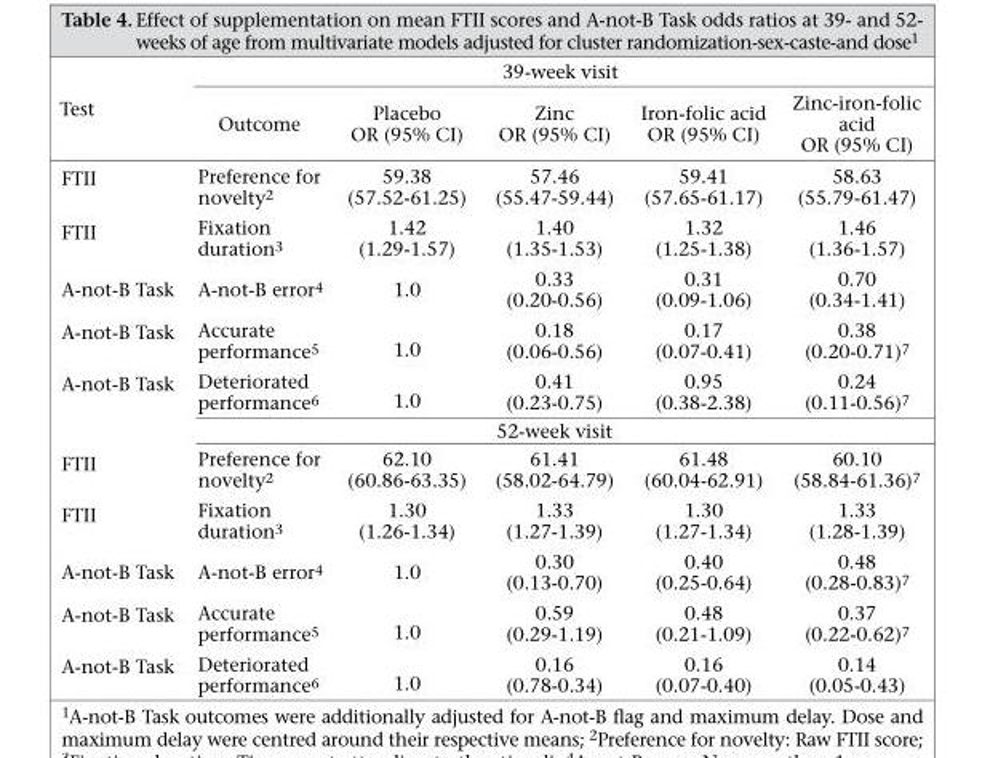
<table><thead><tr><td rowspan="2">Test</td><td colspan="5">39-week visit</td></tr><tr><td>Outcome</td><td>Placebo OR (95% CI)</td><td>Zinc OR (95% CI)</td><td>Iron-folic acid OR (95% CI)</td><td>Zinc-iron-folic acid OR (95% CI)</td></tr></thead><tbody><tr><td>FTII</td><td>Preference for novelty<sup>2</sup></td><td>59.38 (57.52-61.25)</td><td>57.46 (55.47-59.44)</td><td>59.41 (57.65-61.17)</td><td>58.63 (55.79-61.47)</td></tr><tr><td>FTII</td><td>Fixation duration<sup>3</sup></td><td>1.42 (1.29-1.57)</td><td>1.40 (1.35-1.53)</td><td>1.32 (1.25-1.38)</td><td>1.46 (1.36-1.57)</td></tr><tr><td>A-not-B Task</td><td>A-not-B error<sup>4</sup></td><td>1.0</td><td>0.33 (0.20-0.56)</td><td>0.31 (0.09-1.06)</td><td>0.70 (0.34-1.41)</td></tr><tr><td>A-not-B Task</td><td>Accurate performance<sup>5</sup></td><td>1.0</td><td>0.18 (0.06-0.56)</td><td>0.17 (0.07-0.41)</td><td>0.38 (0.20-0.71)<sup>7</sup></td></tr><tr><td rowspan="2">A-not-B Task</td><td>Deteriorated performance<sup>6</sup></td><td>1.0</td><td>0.41 (0.23-0.75)</td><td>0.95 (0.38-2.38)</td><td>0.24 (0.11-0.56)<sup>7</sup></td></tr><tr><td colspan="5">52-week visit</td></tr><tr><td>FTII</td><td>Preference for novelty<sup>2</sup></td><td>62.10 (60.86-63.35)</td><td>61.41 (58.02-64.79)</td><td>61.48 (60.04-62.91)</td><td>60.10 (58.84-61.36)<sup>7</sup></td></tr><tr><td>FTII</td><td>Fixation duration<sup>3</sup></td><td>1.30 (1.26-1.34)</td><td>1.33 (1.27-1.39)</td><td>1.30 (1.27-1.34)</td><td>1.33 (1.28-1.39)</td></tr><tr><td>A-not-B Task</td><td>A-not-B error<sup>4</sup></td><td>1.0</td><td>0.30 (0.13-0.70)</td><td>0.40 (0.25-0.64)</td><td>0.48 (0.28-0.83)<sup>7</sup></td></tr><tr><td>A-not-B Task</td><td>Accurate performance<sup>5</sup></td><td>1.0</td><td>0.59 (0.29-1.19)</td><td>0.48 (0.21-1.09)</td><td>0.37 (0.22-0.62)<sup>7</sup></td></tr><tr><td>A-not-B Task</td><td>Deteriorated performance<sup>6</sup></td><td>1.0</td><td>0.16 (0.78-0.34)</td><td>0.16 (0.07-0.40)</td><td>0.14 (0.05-0.43)</td></tr></tbody></table>